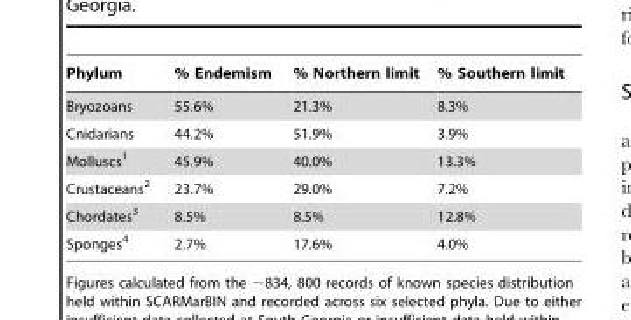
<table><thead><tr><td>Phylum</td><td>% Endemism</td><td>% Northern limit</td><td>% Southern limit</td></tr></thead><tbody><tr><td>Bryozoans</td><td>55.6%</td><td>21.3%</td><td>8.3%</td></tr><tr><td>Cnidarians</td><td>44.2%</td><td>51.9%</td><td>3.9%</td></tr><tr><td>Molluscs<sup>1</sup></td><td>45.9%</td><td>40.0%</td><td>13.3%</td></tr><tr><td>Crustaceans<sup>2</sup></td><td>23.7%</td><td>29.0%</td><td>7.2%</td></tr><tr><td>Chordates<sup>3</sup></td><td>8.5%</td><td>8.5%</td><td>12.8%</td></tr><tr><td>Sponges<sup>4</sup></td><td>2.7%</td><td>17.6%</td><td>4.0%</td></tr></tbody></table>